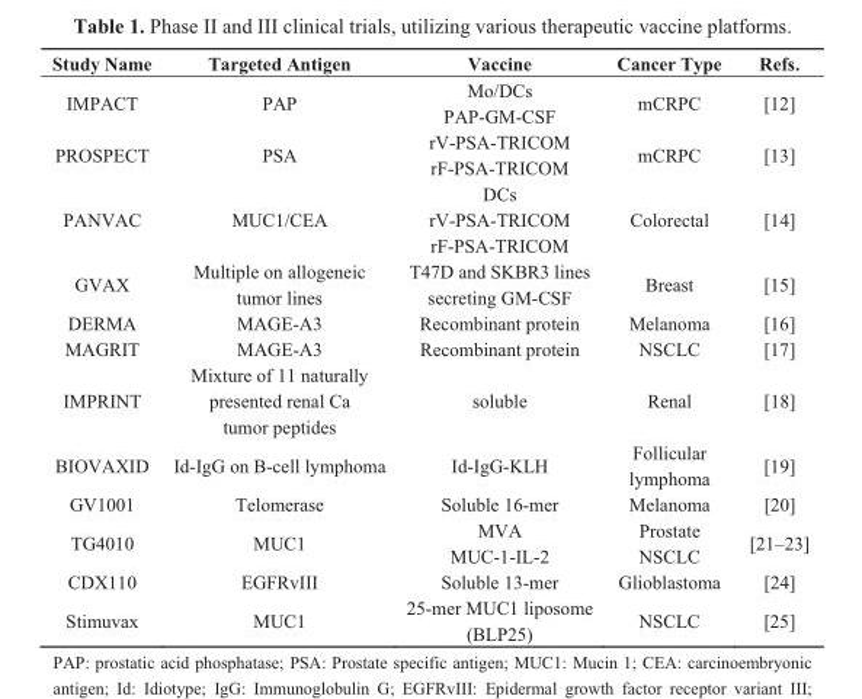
<table><thead><tr><td>Study Name</td><td>Targeted Antigen</td><td>Vaccine</td><td>Cancer Type</td><td>Refs.</td></tr></thead><tbody><tr><td>IMPACT</td><td>PAP</td><td>Mo/DCs PAP-GM-CSF</td><td>mCRPC</td><td>[12]</td></tr><tr><td>PROSPECT</td><td>PSA</td><td>rV-PSA-TRICOM rF-PSA-TRICOM</td><td>mCRPC</td><td>[13]</td></tr><tr><td>PANVAC</td><td>MUC1/CEA</td><td>DCs rV-PSA-TRICOM rF-PSA-TRICOM</td><td>Colorectal</td><td>[14]</td></tr><tr><td>GVAX</td><td>Multiple on allogeneic tumor lines</td><td>T47D and SKBR3 lines secreting GM-CSF</td><td>Breast</td><td>[15]</td></tr><tr><td>DERMA</td><td>MAGE-A3</td><td>Recombinant protein</td><td>Melanoma</td><td>[16]</td></tr><tr><td>MAGRIT</td><td>MAGE-A3</td><td>Recombinant protein</td><td>NSCLC</td><td>[17]</td></tr><tr><td>IMPRINT</td><td>Mixture of 11 naturally presented renal Ca tumor peptides</td><td>soluble</td><td>Renal</td><td>[18]</td></tr><tr><td>BIOVAXID</td><td>Id-IgG on B-cell lymphoma</td><td>Id-IgG-KLH</td><td>Follicular lymphoma</td><td>[19]</td></tr><tr><td>GV1001</td><td>Telomerase</td><td>Soluble 16-mer</td><td>Melanoma</td><td>[20]</td></tr><tr><td>TG4010</td><td>MUC1</td><td>MVA MUC-1-IL-2</td><td>Prostate NSCLC</td><td>[21–23]</td></tr><tr><td>CDX110</td><td>EGFRvIII</td><td>Soluble 13-mer</td><td>Glioblastoma</td><td>[24]</td></tr><tr><td>Stimuvax</td><td>MUC1</td><td>25-mer MUC1 liposome (BLP25)</td><td>NSCLC</td><td>[25]</td></tr></tbody></table>